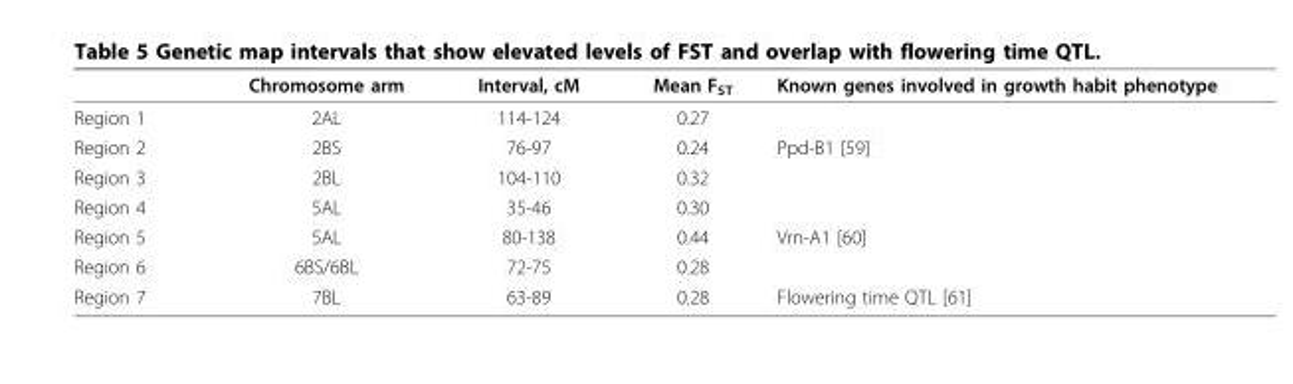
<table><thead><tr><td></td><td>Chromosome arm</td><td>Interval, cM</td><td>Mean F<sub>ST</sub></td><td>Known genes involved in growth habit phenotype</td></tr></thead><tbody><tr><td>Region 1</td><td>2AL</td><td>114-124</td><td>0.27</td><td></td></tr><tr><td>Region 2</td><td>2BS</td><td>76-97</td><td>0.24</td><td>Ppd-B1 [59]</td></tr><tr><td>Region 3</td><td>2BL</td><td>104-110</td><td>0.32</td><td></td></tr><tr><td>Region 4</td><td>5AL</td><td>35-46</td><td>0.30</td><td></td></tr><tr><td>Region 5</td><td>5AL</td><td>80-138</td><td>0.44</td><td>Vrn-A1 [60]</td></tr><tr><td>Region 6</td><td>6BS/6BL</td><td>72-75</td><td>0.28</td><td></td></tr><tr><td>Region 7</td><td>7BL</td><td>63-89</td><td>0.28</td><td>Flowering time QTL [61]</td></tr></tbody></table>